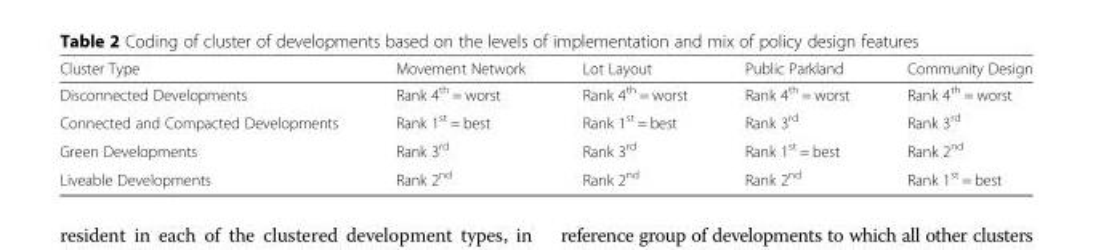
<table><thead><tr><td>Cluster Type</td><td>Movement Network</td><td>Lot Layout</td><td>Public Parkland</td><td>Community Design</td></tr></thead><tbody><tr><td>Disconnected Developments</td><td>Rank 4<sup>th</sup> = worst</td><td>Rank 4<sup>th</sup> = worst</td><td>Rank 4<sup>th</sup> = worst</td><td>Rank 4<sup>th</sup> = worst</td></tr><tr><td>Connected and Compacted Developments</td><td>Rank 1<sup>st</sup> = best</td><td>Rank 1<sup>st</sup> = best</td><td>Rank 3<sup>rd</sup></td><td>Rank 3<sup>rd</sup></td></tr><tr><td>Green Developments</td><td>Rank 3<sup>rd</sup></td><td>Rank 3<sup>rd</sup></td><td>Rank 1<sup>st</sup> = best</td><td>Rank 2<sup>nd</sup></td></tr><tr><td>Liveable Developments</td><td>Rank 2<sup>nd</sup></td><td>Rank 2<sup>nd</sup></td><td>Rank 2<sup>nd</sup></td><td>Rank 1<sup>st</sup> = best</td></tr></tbody></table>